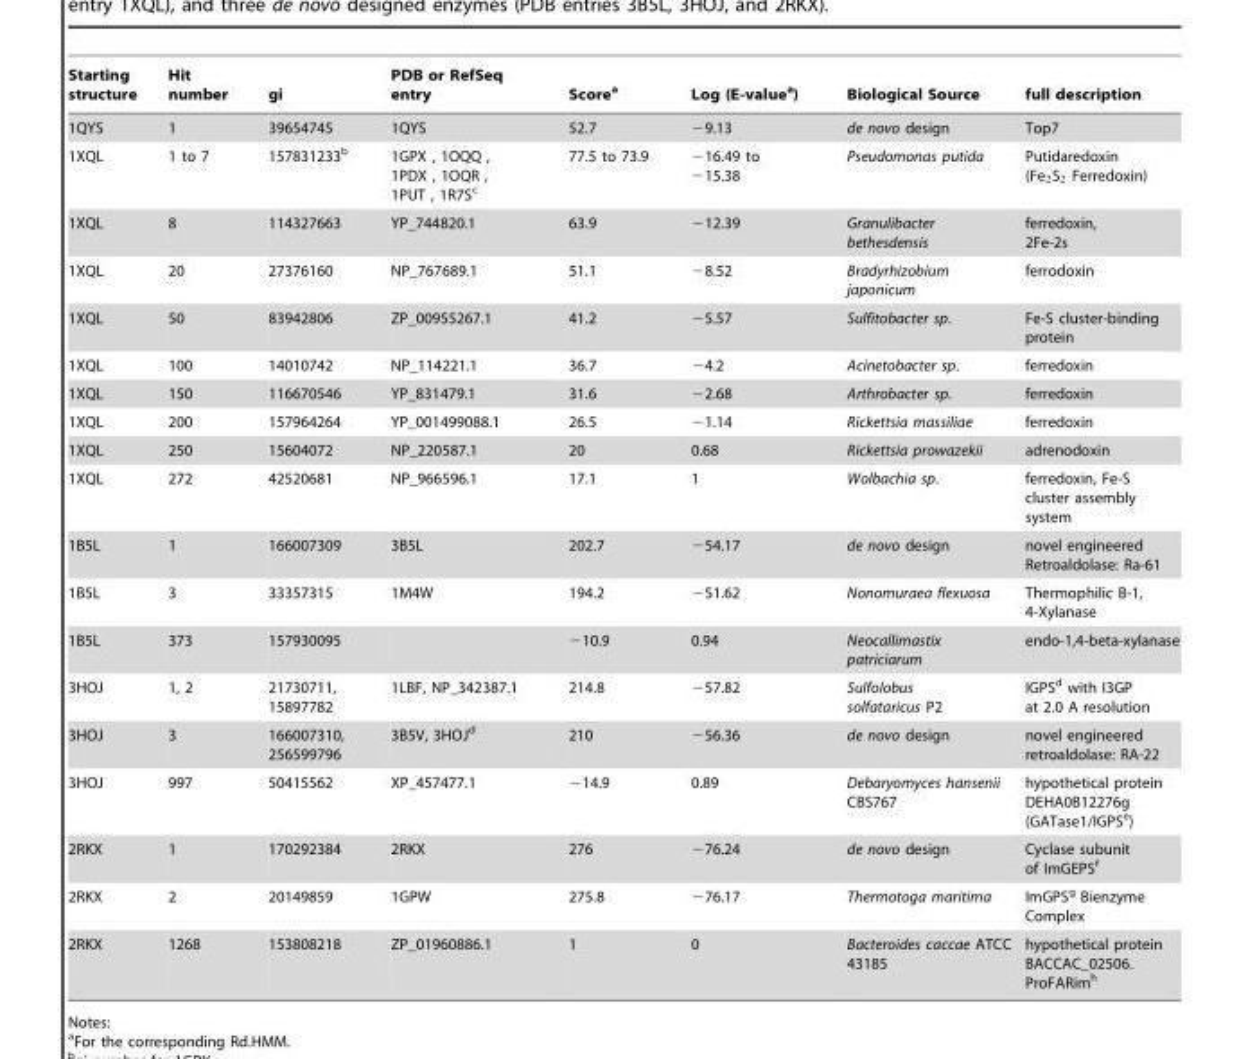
<table><thead><tr><td>Starting structure</td><td>Hit number</td><td>gi</td><td>PDB or RefSeq entry</td><td>Score<sup>a</sup></td><td>Log (E-value<sup>a</sup>)</td><td>Biological Source</td><td>full description</td></tr></thead><tbody><tr><td>1QYS</td><td>1</td><td>39654745</td><td>1QYS</td><td>52.7</td><td>−9.13</td><td>de novo design</td><td>Top7</td></tr><tr><td>1XQL</td><td>1 to 7</td><td>157831233<sup>b</sup></td><td>1GPX , 1OQQ , 1PDX , 1OQR , 1PUT , 1R7S<sup>c</sup></td><td>77.5 to 73.9</td><td>−16.49 to −15.38</td><td>Pseudomonas putida</td><td>Putidaredoxin (Fe2S2 Ferredoxin)</td></tr><tr><td>1XQL</td><td>8</td><td>114327663</td><td>YP_744820.1</td><td>63.9</td><td>−12.39</td><td>Granulibacter bethesdensis</td><td>ferredoxin, 2Fe-2s</td></tr><tr><td>1XQL</td><td>20</td><td>27376160</td><td>NP_767689.1</td><td>51.1</td><td>−8.52</td><td>Bradyrhizobium japonicum</td><td>ferrodoxin</td></tr><tr><td>1XQL</td><td>50</td><td>83942806</td><td>ZP_00955267.1</td><td>41.2</td><td>−5.57</td><td>Sulfitobacter sp.</td><td>Fe-S cluster-binding protein</td></tr><tr><td>1XQL</td><td>100</td><td>14010742</td><td>NP_114221.1</td><td>36.7</td><td>−4.2</td><td>Acinetobacter sp.</td><td>ferredoxin</td></tr><tr><td>1XQL</td><td>150</td><td>116670546</td><td>YP_831479.1</td><td>31.6</td><td>−2.68</td><td>Arthrobacter sp.</td><td>ferredoxin</td></tr><tr><td>1XQL</td><td>200</td><td>157964264</td><td>YP_001499088.1</td><td>26.5</td><td>−1.14</td><td>Rickettsia massiliae</td><td>ferredoxin</td></tr><tr><td>1XQL</td><td>250</td><td>15604072</td><td>NP_220587.1</td><td>20</td><td>0.68</td><td>Rickettsia prowazekii</td><td>adrenodoxin</td></tr><tr><td>1XQL</td><td>272</td><td>42520681</td><td>NP_966596.1</td><td>17.1</td><td>1</td><td>Wolbachia sp.</td><td>ferredoxin, Fe-S cluster assembly system</td></tr><tr><td>1B5L</td><td>1</td><td>166007309</td><td>3B5L</td><td>202.7</td><td>−54.17</td><td>de novo design</td><td>novel engineered Retroaldolase: Ra-61</td></tr><tr><td>1B5L</td><td>3</td><td>33357315</td><td>1M4W</td><td>194.2</td><td>−51.62</td><td>Nonomuraea flexuosa</td><td>Thermophilic B-1, 4-Xylanase</td></tr><tr><td>1B5L</td><td>373</td><td>157930095</td><td></td><td>−10.9</td><td>0.94</td><td>Neocallimastix patriciarum</td><td>endo-1,4-beta-xylanase</td></tr><tr><td>3HOJ</td><td>1, 2</td><td>21730711, 15897782</td><td>1LBF, NP_342387.1</td><td>214.8</td><td>−57.82</td><td>Sulfolobus solfataricus P2</td><td>IGPS<sup>d</sup> with I3GP at 2.0 A resolution</td></tr><tr><td>3HOJ</td><td>3</td><td>166007310, 256599796</td><td>3B5V, 3HOJ<sup>d</sup></td><td>210</td><td>−56.36</td><td>de novo design</td><td>novel engineered retroaldolase: RA-22</td></tr><tr><td>3HOJ</td><td>997</td><td>50415562</td><td>XP_457477.1</td><td>−14.9</td><td>0.89</td><td>Debaryomyces hansenii CBS767</td><td>hypothetical protein DEHA0B12276g (GATase1/IGPS<sup>e</sup>)</td></tr><tr><td>2RKX</td><td>1</td><td>170292384</td><td>2RKX</td><td>276</td><td>−76.24</td><td>de novo design</td><td>Cyclase subunit of ImGEPS<sup>f</sup></td></tr><tr><td>2RKX</td><td>2</td><td>20149859</td><td>1GPW</td><td>275.8</td><td>−76.17</td><td>Thermotoga maritima</td><td>ImGPS<sup>g</sup> Bienzyme Complex</td></tr><tr><td>2RKX</td><td>1268</td><td>153808218</td><td>ZP_01960886.1</td><td>1</td><td>0</td><td>Bacteroides caccae ATCC 43185</td><td>hypothetical protein BACCAC_02506. ProFARim<sup>h</sup></td></tr></tbody></table>